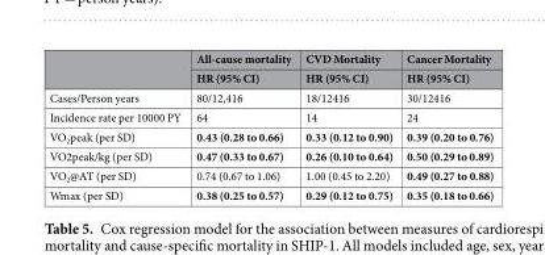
<table><thead><tr><td rowspan="2"></td><td rowspan="2">All-cause mortality HR (95% CI)</td><td rowspan="2">CVD Mortality HR (95% CI)</td><td rowspan="2">Cancer Mortality HR (95% CI)</td></tr><tr></tr></thead><tbody><tr><td>Cases/Person years</td><td>80/12,416</td><td>18/12416</td><td>30/12416</td></tr><tr><td>Incidence rate per 10000 PY</td><td>64</td><td>14</td><td>24</td></tr><tr><td>VO<sub>2</sub>peak (per SD)</td><td>0.43 (0.28 to 0.66)</td><td>0.33 (0.12 to 0.90)</td><td>0.39 (0.20 to 0.76)</td></tr><tr><td>VO2peak/kg (per SD)</td><td>0.47 (0.33 to 0.67)</td><td>0.26 (0.10 to 0.64)</td><td>0.50 (0.29 to 0.89)</td></tr><tr><td>VO<sub>2</sub>@AT (per SD)</td><td>0.74 (0.67 to 1.06)</td><td>1.00 (0.45 to 2.20)</td><td>0.49 (0.27 to 0.88)</td></tr><tr><td>Wmax (per SD)</td><td>0.38 (0.25 to 0.57)</td><td>0.29 (0.12 to 0.75)</td><td>0.35 (0.18 to 0.66)</td></tr></tbody></table>